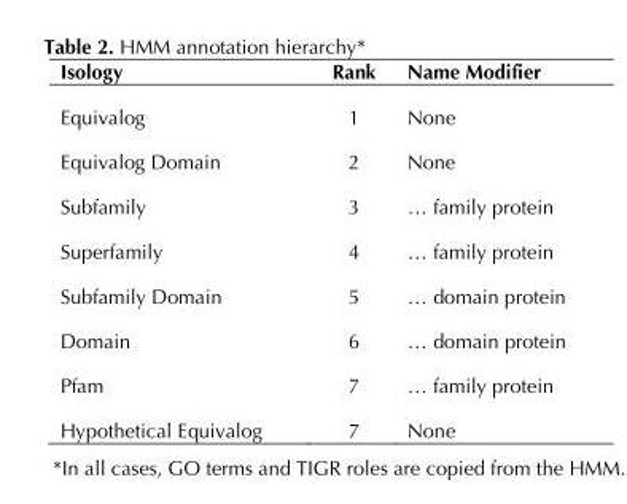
<table><thead><tr><td>Isology</td><td>Rank</td><td>Name Modifier</td></tr></thead><tbody><tr><td>Equivalog</td><td>1</td><td>None</td></tr><tr><td>Equivalog Domain</td><td>2</td><td>None</td></tr><tr><td>Subfamily</td><td>3</td><td>… family protein</td></tr><tr><td>Superfamily</td><td>4</td><td>… family protein</td></tr><tr><td>Subfamily Domain</td><td>5</td><td>… domain protein</td></tr><tr><td>Domain</td><td>6</td><td>… domain protein</td></tr><tr><td>Pfam</td><td>7</td><td>… family protein</td></tr><tr><td>Hypothetical Equivalog</td><td>7</td><td>None</td></tr></tbody></table>